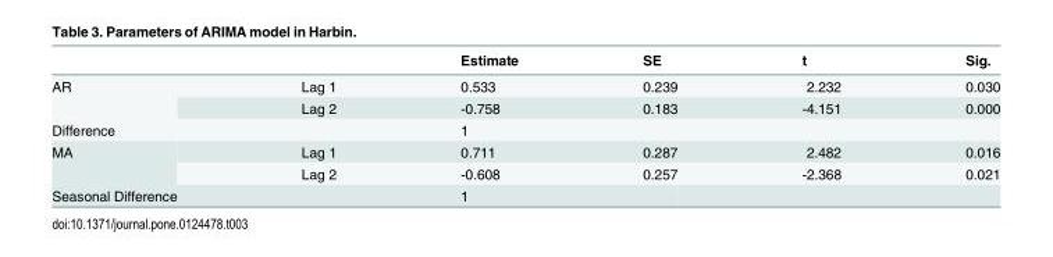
<table><thead><tr><td></td><td></td><td>Estimate</td><td>SE</td><td>t</td><td>Sig.</td></tr></thead><tbody><tr><td rowspan="2">AR</td><td>Lag 1</td><td>0.533</td><td>0.239</td><td>2.232</td><td>0.030</td></tr><tr><td>Lag 2</td><td>-0.758</td><td>0.183</td><td>-4.151</td><td>0.000</td></tr><tr><td>Difference</td><td></td><td>1</td><td></td><td></td><td></td></tr><tr><td rowspan="2">MA</td><td>Lag 1</td><td>0.711</td><td>0.287</td><td>2.482</td><td>0.016</td></tr><tr><td>Lag 2</td><td>-0.608</td><td>0.257</td><td>-2.368</td><td>0.021</td></tr><tr><td>Seasonal Difference</td><td></td><td>1</td><td></td><td></td><td></td></tr></tbody></table>